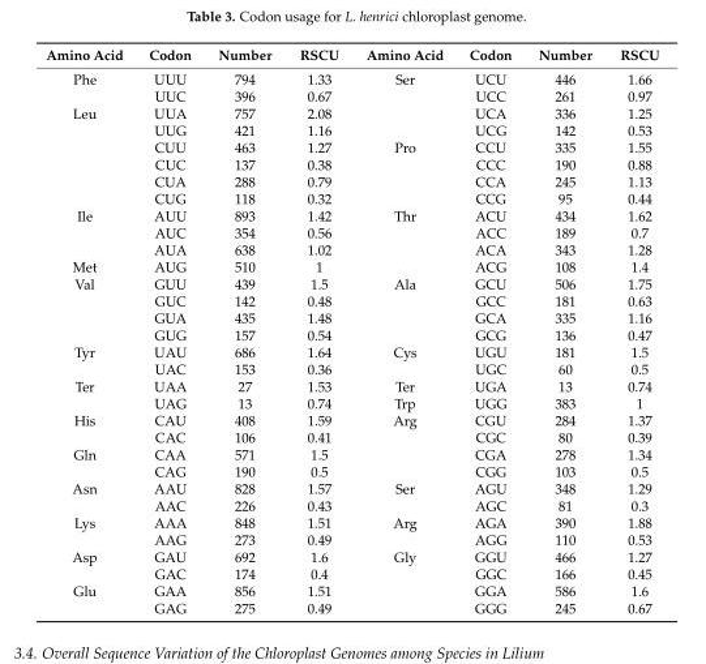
<table><thead><tr><td>Amino Acid</td><td>Codon</td><td>Number</td><td>RSCU</td><td>Amino Acid</td><td>Codon</td><td>Number</td><td>RSCU</td></tr></thead><tbody><tr><td rowspan="2">Phe</td><td>UUU</td><td>794</td><td>1.33</td><td>Ser</td><td>UCU</td><td>446</td><td>1.66</td></tr><tr><td>UUC</td><td>396</td><td>0.67</td><td></td><td>UCC</td><td>261</td><td>0.97</td></tr><tr><td rowspan="6">Leu</td><td>UUA</td><td>757</td><td>2.08</td><td></td><td>UCA</td><td>336</td><td>1.25</td></tr><tr><td>UUG</td><td>421</td><td>1.16</td><td></td><td>UCG</td><td>142</td><td>0.53</td></tr><tr><td>CUU</td><td>463</td><td>1.27</td><td>Pro</td><td>CCU</td><td>335</td><td>1.55</td></tr><tr><td>CUC</td><td>137</td><td>0.38</td><td></td><td>CCC</td><td>190</td><td>0.88</td></tr><tr><td>CUA</td><td>288</td><td>0.79</td><td></td><td>CCA</td><td>245</td><td>1.13</td></tr><tr><td>CUG</td><td>118</td><td>0.32</td><td></td><td>CCG</td><td>95</td><td>0.44</td></tr><tr><td rowspan="3">Ile</td><td>AUU</td><td>893</td><td>1.42</td><td>Thr</td><td>ACU</td><td>434</td><td>1.62</td></tr><tr><td>AUC</td><td>354</td><td>0.56</td><td></td><td>ACC</td><td>189</td><td>0.7</td></tr><tr><td>AUA</td><td>638</td><td>1.02</td><td></td><td>ACA</td><td>343</td><td>1.28</td></tr><tr><td>Met</td><td>AUG</td><td>510</td><td>1</td><td></td><td>ACG</td><td>108</td><td>1.4</td></tr><tr><td rowspan="4">Val</td><td>GUU</td><td>439</td><td>1.5</td><td>Ala</td><td>GCU</td><td>506</td><td>1.75</td></tr><tr><td>GUC</td><td>142</td><td>0.48</td><td></td><td>GCC</td><td>181</td><td>0.63</td></tr><tr><td>GUA</td><td>435</td><td>1.48</td><td></td><td>GCA</td><td>335</td><td>1.16</td></tr><tr><td>GUG</td><td>157</td><td>0.54</td><td></td><td>GCG</td><td>136</td><td>0.47</td></tr><tr><td rowspan="2">Tyr</td><td>UAU</td><td>686</td><td>1.64</td><td>Cys</td><td>UGU</td><td>181</td><td>1.5</td></tr><tr><td>UAC</td><td>153</td><td>0.36</td><td></td><td>UGC</td><td>60</td><td>0.5</td></tr><tr><td rowspan="2">Ter</td><td>UAA</td><td>27</td><td>1.53</td><td>Ter</td><td>UGA</td><td>13</td><td>0.74</td></tr><tr><td>UAG</td><td>13</td><td>0.74</td><td>Trp</td><td>UGG</td><td>383</td><td>1</td></tr><tr><td rowspan="2">His</td><td>CAU</td><td>408</td><td>1.59</td><td>Arg</td><td>CGU</td><td>284</td><td>1.37</td></tr><tr><td>CAC</td><td>106</td><td>0.41</td><td></td><td>CGC</td><td>80</td><td>0.39</td></tr><tr><td rowspan="2">Gln</td><td>CAA</td><td>571</td><td>1.5</td><td></td><td>CGA</td><td>278</td><td>1.34</td></tr><tr><td>CAG</td><td>190</td><td>0.5</td><td></td><td>CGG</td><td>103</td><td>0.5</td></tr><tr><td rowspan="2">Asn</td><td>AAU</td><td>828</td><td>1.57</td><td>Ser</td><td>AGU</td><td>348</td><td>1.29</td></tr><tr><td>AAC</td><td>226</td><td>0.43</td><td></td><td>AGC</td><td>81</td><td>0.3</td></tr><tr><td rowspan="2">Lys</td><td>AAA</td><td>848</td><td>1.51</td><td>Arg</td><td>AGA</td><td>390</td><td>1.88</td></tr><tr><td>AAG</td><td>273</td><td>0.49</td><td></td><td>AGG</td><td>110</td><td>0.53</td></tr><tr><td rowspan="2">Asp</td><td>GAU</td><td>692</td><td>1.6</td><td>Gly</td><td>GGU</td><td>466</td><td>1.27</td></tr><tr><td>GAC</td><td>174</td><td>0.4</td><td></td><td>GGC</td><td>166</td><td>0.45</td></tr><tr><td rowspan="2">Glu</td><td>GAA</td><td>856</td><td>1.51</td><td></td><td>GGA</td><td>586</td><td>1.6</td></tr><tr><td>GAG</td><td>275</td><td>0.49</td><td></td><td>GGG</td><td>245</td><td>0.67</td></tr></tbody></table>